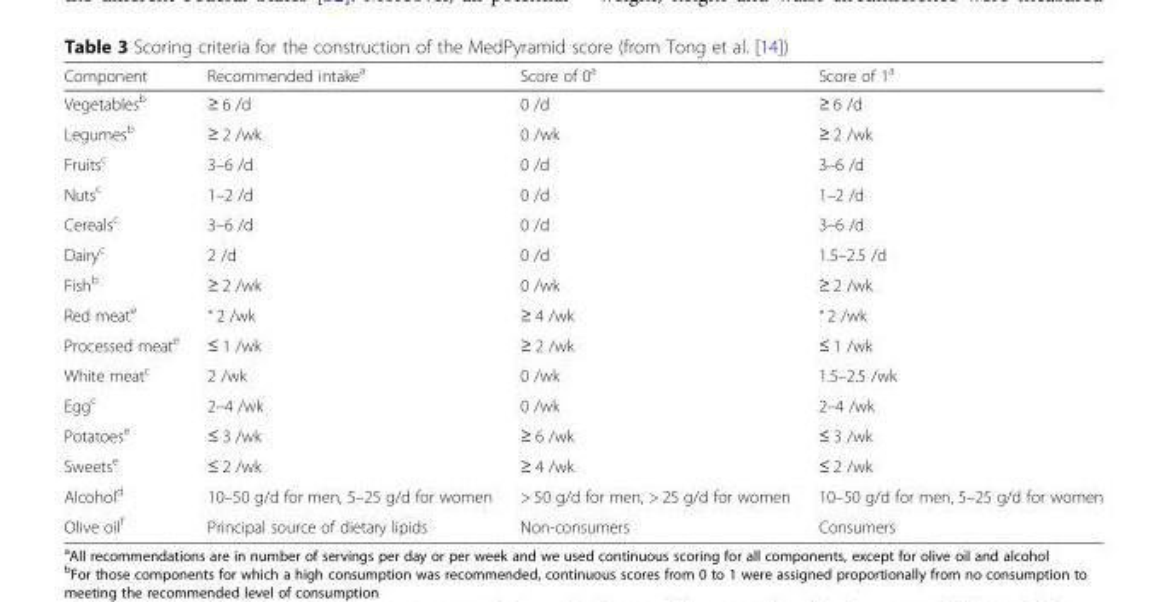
<table><thead><tr><td>Component</td><td>Recommended intake<sup>a</sup></td><td>Score of 0<sup>a</sup></td><td>Score of 1<sup>a</sup></td></tr></thead><tbody><tr><td>Vegetables<sup>b</sup></td><td>≥ 6 /d</td><td>0 /d</td><td>≥ 6 /d</td></tr><tr><td>Legumes<sup>b</sup></td><td>≥ 2 /wk</td><td>0 /wk</td><td>≥ 2 /wk</td></tr><tr><td>Fruits<sup>c</sup></td><td>3–6 /d</td><td>0 /d</td><td>3–6 /d</td></tr><tr><td>Nuts<sup>c</sup></td><td>1–2 /d</td><td>0 /d</td><td>1–2 /d</td></tr><tr><td>Cereals<sup>c</sup></td><td>3–6 /d</td><td>0 /d</td><td>3–6 /d</td></tr><tr><td>Dairy<sup>c</sup></td><td>2 /d</td><td>0 /d</td><td>1.5–2.5 /d</td></tr><tr><td>Fish<sup>b</sup></td><td>≥ 2 /wk</td><td>0 /wk</td><td>≥ 2 /wk</td></tr><tr><td>Red meat<sup>e</sup></td><td>˂ 2 /wk</td><td>≥ 4 /wk</td><td>˂ 2 /wk</td></tr><tr><td>Processed meat<sup>e</sup></td><td>≤ 1 /wk</td><td>≥ 2 /wk</td><td>≤ 1 /wk</td></tr><tr><td>White meat<sup>c</sup></td><td>2 /wk</td><td>0 /wk</td><td>1.5–2.5 /wk</td></tr><tr><td>Egg<sup>c</sup></td><td>2–4 /wk</td><td>0 /wk</td><td>2–4 /wk</td></tr><tr><td>Potatoes<sup>e</sup></td><td>≤ 3 /wk</td><td>≥ 6 /wk</td><td>≤ 3 /wk</td></tr><tr><td>Sweets<sup>e</sup></td><td>≤ 2 /wk</td><td>≥ 4 /wk</td><td>≤ 2 /wk</td></tr><tr><td>Alcohol<sup>d</sup></td><td>10–50 g/d for men, 5–25 g/d for women</td><td>&gt; 50 g/d for men, &gt; 25 g/d for women</td><td>10–50 g/d for men, 5–25 g/d for women</td></tr><tr><td>Olive oil<sup>f</sup></td><td>Principal source of dietary lipids</td><td>Non-consumers</td><td>Consumers</td></tr></tbody></table>